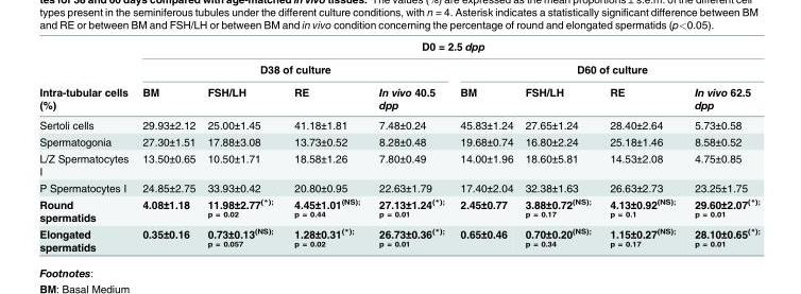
<table><thead><tr><td rowspan="3">Intra-tubular cells (%)</td><td colspan="8">D0 = 2.5 dpp</td></tr><tr><td colspan="4">D38 of culture</td><td colspan="4">D60 of culture</td></tr><tr><td>BM</td><td>FSH/LH</td><td>RE</td><td>In vivo 40.5 dpp</td><td>BM</td><td>FSH/LH</td><td>RE</td><td>In vivo 62.5 dpp</td></tr></thead><tbody><tr><td>Sertoli cells</td><td>29.93±2.12</td><td>25.00±1.45</td><td>41.18±1.81</td><td>7.48±0.24</td><td>45.83±1.24</td><td>27.65±1.24</td><td>28.40±2.64</td><td>5.73±0.58</td></tr><tr><td>Spermatogonia</td><td>27.30±1.51</td><td>17.88±3.08</td><td>13.73±0.52</td><td>8.28±0.48</td><td>19.68±0.74</td><td>16.80±2.24</td><td>25.18±1.46</td><td>8.58±0.52</td></tr><tr><td>L/Z Spermatocytes I</td><td>13.50±0.65</td><td>10.50±1.71</td><td>18.58±1.26</td><td>7.80±0.49</td><td>14.00±1.96</td><td>18.60±5.81</td><td>14.53±2.08</td><td>4.75±0.85</td></tr><tr><td>P Spermatocytes I</td><td>24.85±2.75</td><td>33.93±0.42</td><td>20.80±0.95</td><td>22.63±1.79</td><td>17.40±2.04</td><td>32.38±1.63</td><td>26.63±2.73</td><td>23.25±1.75</td></tr><tr><td>Round spermatids</td><td>4.08±1.18</td><td>11.98±2.77<sup>(*); p = 0.02</sup></td><td>4.45±1.01<sup>(NS); p = 0.44</sup></td><td>27.13±1.24<sup>(*); p = 0.01</sup></td><td>2.45±0.77</td><td>3.88±0.72<sup>(NS); p = 0.17</sup></td><td>4.13±0.92<sup>(NS); p = 0.1</sup></td><td>29.60±2.07<sup>(*); p = 0.01</sup></td></tr><tr><td>Elongated spermatids</td><td>0.35±0.16</td><td>0.73±0.13<sup>(NS); p = 0.057</sup></td><td>1.28±0.31<sup>(*); p = 0.02</sup></td><td>26.73±0.36<sup>(*); p = 0.01</sup></td><td>0.65±0.46</td><td>0.70±0.20<sup>(NS); p = 0.34</sup></td><td>1.15±0.27<sup>(NS); p = 0.17</sup></td><td>28.10±0.65<sup>(*); p = 0.01</sup></td></tr></tbody></table>